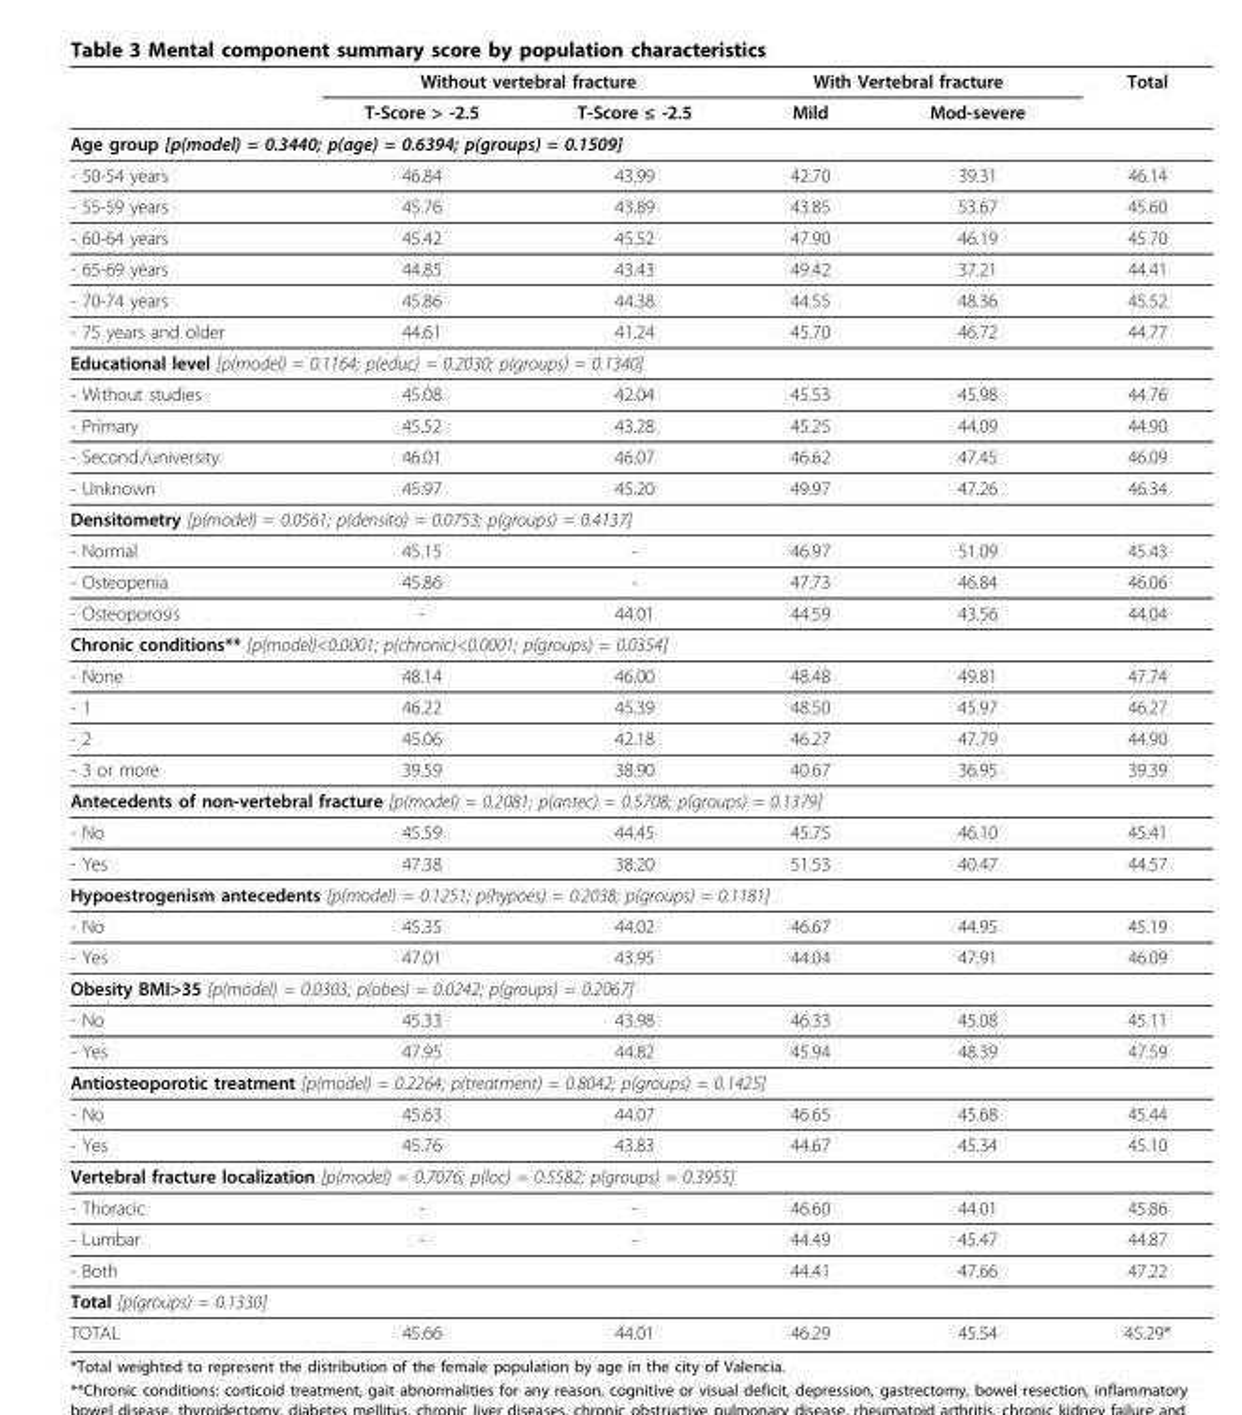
<table><thead><tr><td rowspan="2"></td><td colspan="2">Without vertebral fracture</td><td colspan="2">With Vertebral fracture</td><td rowspan="2">Total</td></tr><tr><td>T-Score &gt; -2.5</td><td>T-Score ≤ -2.5</td><td>Mild</td><td>Mod-severe</td></tr></thead><tbody><tr><td colspan="6">Age group [p(model) = 0.3440; p(age) = 0.6394; p(groups) = 0.1509]</td></tr><tr><td>- 50-54 years</td><td>46.84</td><td>43.99</td><td>42.70</td><td>39.31</td><td>46.14</td></tr><tr><td>- 55-59 years</td><td>45.76</td><td>43.89</td><td>43.85</td><td>53.67</td><td>45.60</td></tr><tr><td>- 60-64 years</td><td>45.42</td><td>45.52</td><td>47.90</td><td>46.19</td><td>45.70</td></tr><tr><td>- 65-69 years</td><td>44.85</td><td>43.43</td><td>49.42</td><td>37.21</td><td>44.41</td></tr><tr><td>- 70-74 years</td><td>45.86</td><td>44.38</td><td>44.55</td><td>48.36</td><td>45.52</td></tr><tr><td>- 75 years and older</td><td>44.61</td><td>41.24</td><td>45.70</td><td>46.72</td><td>44.77</td></tr><tr><td colspan="6">Educational level [p(model) = 0.1164; p(educ) = 0.2030; p(groups) = 0.1340]</td></tr><tr><td>- Without studies</td><td>45.08</td><td>42.04</td><td>45.53</td><td>45.98</td><td>44.76</td></tr><tr><td>- Primary</td><td>45.52</td><td>43.28</td><td>45.25</td><td>44.09</td><td>44.90</td></tr><tr><td>- Second./university</td><td>46.01</td><td>46.07</td><td>46.62</td><td>47.45</td><td>46.09</td></tr><tr><td>- Unknown</td><td>45.97</td><td>45.20</td><td>49.97</td><td>47.26</td><td>46.34</td></tr><tr><td colspan="6">Densitometry [p(model) = 0.0561; p(densito) = 0.0753; p(groups) = 0.4137]</td></tr><tr><td>- Normal</td><td>45.15</td><td>-</td><td>46.97</td><td>51.09</td><td>45.43</td></tr><tr><td>- Osteopenia</td><td>45.86</td><td>-</td><td>47.73</td><td>46.84</td><td>46.06</td></tr><tr><td>- Osteoporosis</td><td>-</td><td>44.01</td><td>44.59</td><td>43.56</td><td>44.04</td></tr><tr><td colspan="6">Chronic conditions** [p(model)&lt;0.0001; p(chronic)&lt;0.0001; p(groups) = 0.0354]</td></tr><tr><td>- None</td><td>48.14</td><td>46.00</td><td>48.48</td><td>49.81</td><td>47.74</td></tr><tr><td>- 1</td><td>46.22</td><td>45.39</td><td>48.50</td><td>45.97</td><td>46.27</td></tr><tr><td>- 2</td><td>45.06</td><td>42.18</td><td>46.27</td><td>47.79</td><td>44.90</td></tr><tr><td>- 3 or more</td><td>39.59</td><td>38.90</td><td>40.67</td><td>36.95</td><td>39.39</td></tr><tr><td colspan="6">Antecedents of non-vertebral fracture [p(model) = 0.2081; p(antec) = 0.5708; p(groups) = 0.1379]</td></tr><tr><td>- No</td><td>45.59</td><td>44.45</td><td>45.75</td><td>46.10</td><td>45.41</td></tr><tr><td>- Yes</td><td>47.38</td><td>38.20</td><td>51.53</td><td>40.47</td><td>44.57</td></tr><tr><td colspan="6">Hypoestrogenism antecedents [p(model) = 0.1251; p(hypoes) = 0.2038; p(groups) = 0.1181]</td></tr><tr><td>- No</td><td>45.35</td><td>44.02</td><td>46.67</td><td>44.95</td><td>45.19</td></tr><tr><td>- Yes</td><td>47.01</td><td>43.95</td><td>44.04</td><td>47.91</td><td>46.09</td></tr><tr><td colspan="6">Obesity BMI&gt;35 [p(model) = 0.0303; p(obes) = 0.0242; p(groups) = 0.2067]</td></tr><tr><td>- No</td><td>45.33</td><td>43.98</td><td>46.33</td><td>45.08</td><td>45.11</td></tr><tr><td>- Yes</td><td>47.95</td><td>44.82</td><td>45.94</td><td>48.39</td><td>47.59</td></tr><tr><td colspan="6">Antiosteoporotic treatment [p(model) = 0.2264; p(treatment) = 0.8042; p(groups) = 0.1425]</td></tr><tr><td>- No</td><td>45.63</td><td>44.07</td><td>46.65</td><td>45.68</td><td>45.44</td></tr><tr><td>- Yes</td><td>45.76</td><td>43.83</td><td>44.67</td><td>45.34</td><td>45.10</td></tr><tr><td colspan="6">Vertebral fracture localization [p(model) = 0.7076; p(loc) = 0.5582; p(groups) = 0.3955]</td></tr><tr><td>- Thoracic</td><td>-</td><td>-</td><td>46.60</td><td>44.01</td><td>45.86</td></tr><tr><td>- Lumbar</td><td>-</td><td>-</td><td>44.49</td><td>45.47</td><td>44.87</td></tr><tr><td>- Both</td><td></td><td></td><td>44.41</td><td>47.66</td><td>47.22</td></tr><tr><td colspan="6">Total [p(groups) = 0.1330]</td></tr><tr><td>TOTAL</td><td>45.66</td><td>44.01</td><td>46.29</td><td>45.54</td><td>45.29*</td></tr></tbody></table>